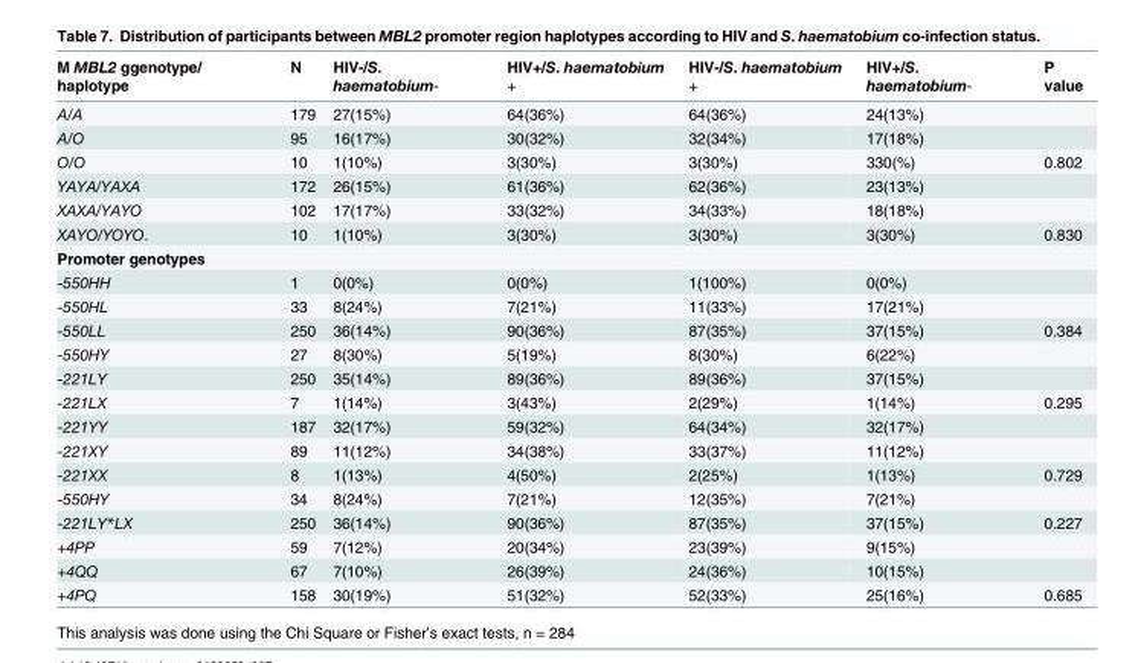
<table><thead><tr><td>M MBL2 ggenotype/ haplotype</td><td>N</td><td>HIV-/S. haematobium-</td><td>HIV+/S. haematobium +</td><td>HIV-/S. haematobium +</td><td>HIV+/S. haematobium-</td><td>P value</td></tr></thead><tbody><tr><td>A/A</td><td>179</td><td>27(15%)</td><td>64(36%)</td><td>64(36%)</td><td>24(13%)</td><td></td></tr><tr><td>A/O</td><td>95</td><td>16(17%)</td><td>30(32%)</td><td>32(34%)</td><td>17(18%)</td><td></td></tr><tr><td>O/O</td><td>10</td><td>1(10%)</td><td>3(30%)</td><td>3(30%)</td><td>330(%)</td><td>0.802</td></tr><tr><td>YAYA/YAXA</td><td>172</td><td>26(15%)</td><td>61(36%)</td><td>62(36%)</td><td>23(13%)</td><td></td></tr><tr><td>XAXA/YAYO</td><td>102</td><td>17(17%)</td><td>33(32%)</td><td>34(33%)</td><td>18(18%)</td><td></td></tr><tr><td>XAYO/YOYO.</td><td>10</td><td>1(10%)</td><td>3(30%)</td><td>3(30%)</td><td>3(30%)</td><td>0.830</td></tr><tr><td colspan="7">Promoter genotypes</td></tr><tr><td>-550HH</td><td>1</td><td>0(0%)</td><td>0(0%)</td><td>1(100%)</td><td>0(0%)</td><td></td></tr><tr><td>-550HL</td><td>33</td><td>8(24%)</td><td>7(21%)</td><td>11(33%)</td><td>17(21%)</td><td></td></tr><tr><td>-550LL</td><td>250</td><td>36(14%)</td><td>90(36%)</td><td>87(35%)</td><td>37(15%)</td><td>0.384</td></tr><tr><td>-550HY</td><td>27</td><td>8(30%)</td><td>5(19%)</td><td>8(30%)</td><td>6(22%)</td><td></td></tr><tr><td>-221LY</td><td>250</td><td>35(14%)</td><td>89(36%)</td><td>89(36%)</td><td>37(15%)</td><td></td></tr><tr><td>-221LX</td><td>7</td><td>1(14%)</td><td>3(43%)</td><td>2(29%)</td><td>1(14%)</td><td>0.295</td></tr><tr><td>-221YY</td><td>187</td><td>32(17%)</td><td>59(32%)</td><td>64(34%)</td><td>32(17%)</td><td></td></tr><tr><td>-221XY</td><td>89</td><td>11(12%)</td><td>34(38%)</td><td>33(37%)</td><td>11(12%)</td><td></td></tr><tr><td>-221XX</td><td>8</td><td>1(13%)</td><td>4(50%)</td><td>2(25%)</td><td>1(13%)</td><td>0.729</td></tr><tr><td>-550HY</td><td>34</td><td>8(24%)</td><td>7(21%)</td><td>12(35%)</td><td>7(21%)</td><td></td></tr><tr><td>-221LY*LX</td><td>250</td><td>36(14%)</td><td>90(36%)</td><td>87(35%)</td><td>37(15%)</td><td>0.227</td></tr><tr><td>+4PP</td><td>59</td><td>7(12%)</td><td>20(34%)</td><td>23(39%)</td><td>9(15%)</td><td></td></tr><tr><td>+4QQ</td><td>67</td><td>7(10%)</td><td>26(39%)</td><td>24(36%)</td><td>10(15%)</td><td></td></tr><tr><td>+4PQ</td><td>158</td><td>30(19%)</td><td>51(32%)</td><td>52(33%)</td><td>25(16%)</td><td>0.685</td></tr></tbody></table>